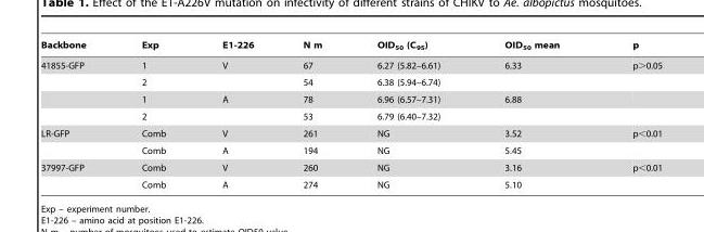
<table><thead><tr><td>Backbone</td><td>Exp</td><td>E1-226</td><td>N m</td><td>OID<sub>50</sub> (C<sub>95</sub>)</td><td>OID<sub>50</sub> mean</td><td>p</td></tr></thead><tbody><tr><td rowspan="4">41855-GFP</td><td>1</td><td>V</td><td>67</td><td>6.27 (5.82–6.61)</td><td>6.33</td><td>p&gt;0.05</td></tr><tr><td>2</td><td></td><td>54</td><td>6.38 (5.94–6.74)</td><td></td><td></td></tr><tr><td>1</td><td>A</td><td>78</td><td>6.96 (6.57–7.31)</td><td>6.88</td><td></td></tr><tr><td>2</td><td></td><td>53</td><td>6.79 (6.40–7.32)</td><td></td><td></td></tr><tr><td rowspan="2">LR-GFP</td><td>Comb</td><td>V</td><td>261</td><td>NG</td><td>3.52</td><td>p&lt;0.01</td></tr><tr><td>Comb</td><td>A</td><td>194</td><td>NG</td><td>5.45</td><td></td></tr><tr><td rowspan="2">37997-GFP</td><td>Comb</td><td>V</td><td>260</td><td>NG</td><td>3.16</td><td>p&lt;0.01</td></tr><tr><td>Comb</td><td>A</td><td>274</td><td>NG</td><td>5.10</td><td></td></tr></tbody></table>